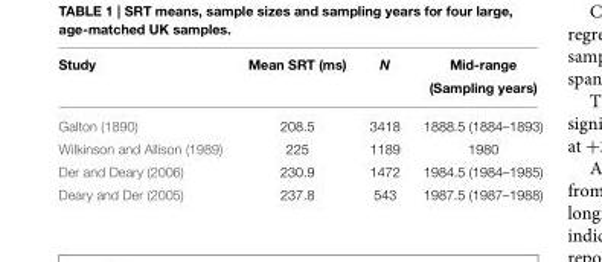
<table><thead><tr><td rowspan="2">Study</td><td rowspan="2">Mean SRT (ms)</td><td rowspan="2">N</td><td rowspan="2">Mid-range (Sampling years)</td></tr><tr></tr></thead><tbody><tr><td>Galton (1890)</td><td>208.5</td><td>3418</td><td>1888.5 (1884–1893)</td></tr><tr><td>Wilkinson and Allison (1989)</td><td>225</td><td>1189</td><td>1980</td></tr><tr><td>Der and Deary (2006)</td><td>230.9</td><td>1472</td><td>1984.5 (1984–1985)</td></tr><tr><td>Deary and Der (2005)</td><td>237.8</td><td>543</td><td>1987.5 (1987–1988)</td></tr></tbody></table>